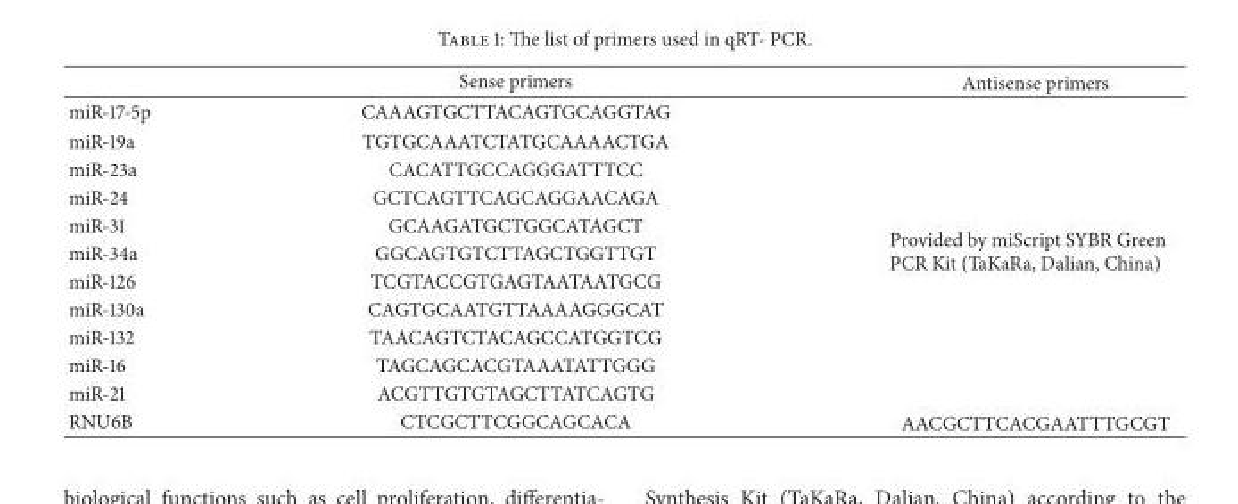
<table><thead><tr><td></td><td>Sense primers</td><td>Antisense primers</td></tr></thead><tbody><tr><td>miR-17-5p</td><td>CAAAGTGCTTACAGTGCAGGTAG</td><td rowspan="11">Provided by miScript SYBR Green PCR Kit (TaKaRa, Dalian, China)</td></tr><tr><td>miR-19a</td><td>TGTGCAAATCTATGCAAAACTGA</td></tr><tr><td>miR-23a</td><td>CACATTGCCAGGGATTTCC</td></tr><tr><td>miR-24</td><td>GCTCAGTTCAGCAGGAACAGA</td></tr><tr><td>miR-31</td><td>GCAAGATGCTGGCATAGCT</td></tr><tr><td>miR-34a</td><td>GGCAGTGTCTTAGCTGGTTGT</td></tr><tr><td>miR-126</td><td>TCGTACCGTGAGTAATAATGCG</td></tr><tr><td>miR-130a</td><td>CAGTGCAATGTTAAAAGGGCAT</td></tr><tr><td>miR-132</td><td>TAACAGTCTACAGCCATGGTCG</td></tr><tr><td>miR-16</td><td>TAGCAGCACGTAAATATTGGG</td></tr><tr><td>miR-21</td><td>ACGTTGTGTAGCTTATCAGTG</td></tr><tr><td>RNU6B</td><td>CTCGCTTCGGCAGCACA</td><td>AACGCTTCACGAATTTGCGT</td></tr></tbody></table>